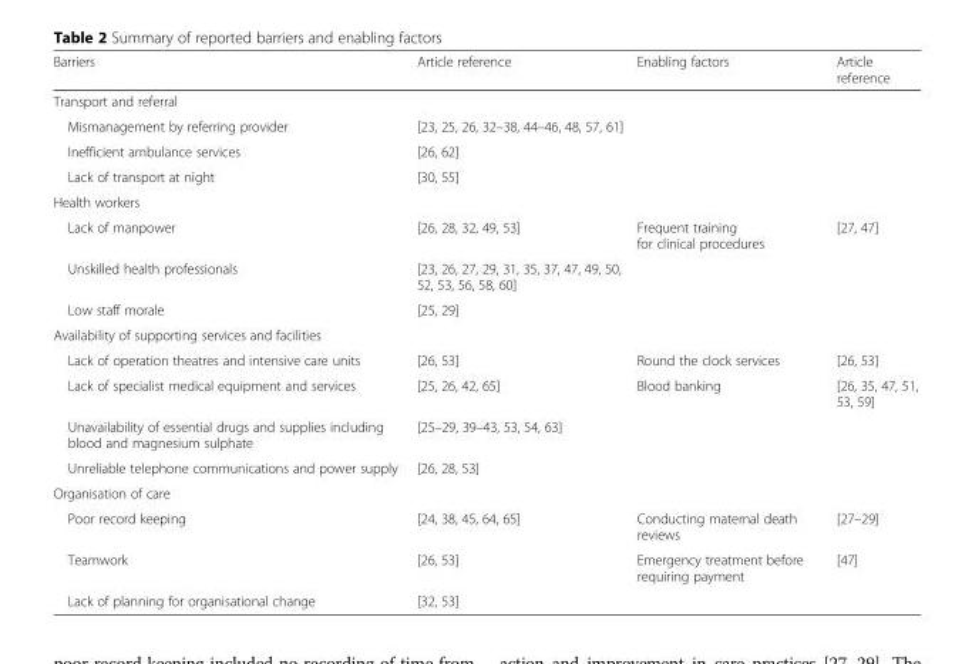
<table><thead><tr><td>Barriers</td><td>Article reference</td><td>Enabling factors</td><td>Article reference</td></tr></thead><tbody><tr><td colspan="4">Transport and referral</td></tr><tr><td>Mismanagement by referring provider</td><td>[23, 25, 26, 32–38, 44–46, 48, 57, 61]</td><td></td><td></td></tr><tr><td>Inefficient ambulance services</td><td>[26, 62]</td><td></td><td></td></tr><tr><td>Lack of transport at night</td><td>[30, 55]</td><td></td><td></td></tr><tr><td colspan="4">Health workers</td></tr><tr><td>Lack of manpower</td><td>[26, 28, 32, 49, 53]</td><td>Frequent training for clinical procedures</td><td>[27, 47]</td></tr><tr><td>Unskilled health professionals</td><td>[23, 26, 27, 29, 31, 35, 37, 47, 49, 50, 52, 53, 56, 58, 60]</td><td></td><td></td></tr><tr><td>Low staff morale</td><td>[25, 29]</td><td></td><td></td></tr><tr><td colspan="4">Availability of supporting services and facilities</td></tr><tr><td>Lack of operation theatres and intensive care units</td><td>[26, 53]</td><td>Round the clock services</td><td>[26, 53]</td></tr><tr><td>Lack of specialist medical equipment and services</td><td>[25, 26, 42, 65]</td><td>Blood banking</td><td>[26, 35, 47, 51, 53, 59]</td></tr><tr><td>Unavailability of essential drugs and supplies including blood and magnesium sulphate</td><td>[25–29, 39–43, 53, 54, 63]</td><td></td><td></td></tr><tr><td>Unreliable telephone communications and power supply</td><td>[26, 28, 53]</td><td></td><td></td></tr><tr><td colspan="4">Organisation of care</td></tr><tr><td>Poor record keeping</td><td>[24, 38, 45, 64, 65]</td><td>Conducting maternal death reviews</td><td>[27–29]</td></tr><tr><td>Teamwork</td><td>[26, 53]</td><td>Emergency treatment before requiring payment</td><td>[47]</td></tr><tr><td>Lack of planning for organisational change</td><td>[32, 53]</td><td></td><td></td></tr></tbody></table>